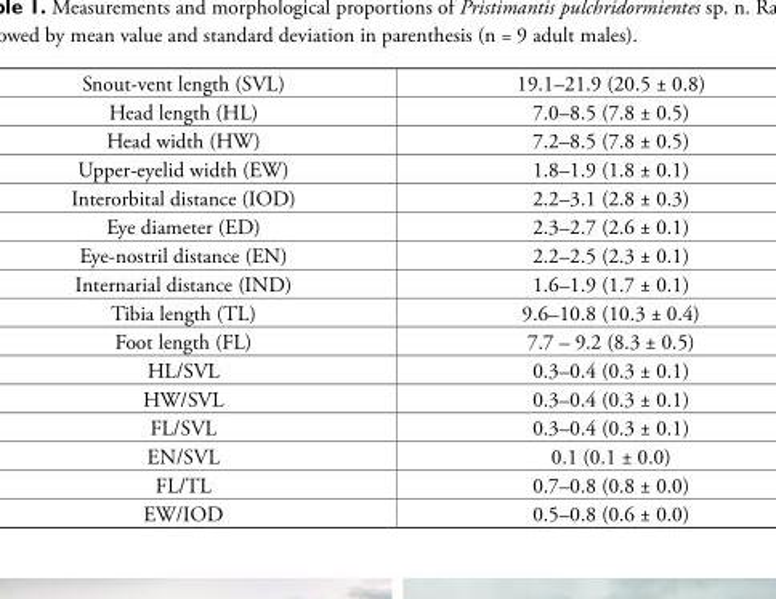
<table><tbody><tr><td>Snout-vent length (SVL)</td><td>19.1–21.9 (20.5 ± 0.8)</td></tr><tr><td>Head length (HL)</td><td>7.0–8.5 (7.8 ± 0.5)</td></tr><tr><td>Head width (HW)</td><td>7.2–8.5 (7.8 ± 0.5)</td></tr><tr><td>Upper-eyelid width (EW)</td><td>1.8–1.9 (1.8 ± 0.1)</td></tr><tr><td>Interorbital distance (IOD)</td><td>2.2–3.1 (2.8 ± 0.3)</td></tr><tr><td>Eye diameter (ED)</td><td>2.3–2.7 (2.6 ± 0.1)</td></tr><tr><td>Eye-nostril distance (EN)</td><td>2.2–2.5 (2.3 ± 0.1)</td></tr><tr><td>Internarial distance (IND)</td><td>1.6–1.9 (1.7 ± 0.1)</td></tr><tr><td>Tibia length (TL)</td><td>9.6–10.8 (10.3 ± 0.4)</td></tr><tr><td>Foot length (FL)</td><td>7.7 – 9.2 (8.3 ± 0.5)</td></tr><tr><td>HL/SVL</td><td>0.3–0.4 (0.3 ± 0.1)</td></tr><tr><td>HW/SVL</td><td>0.3–0.4 (0.3 ± 0.1)</td></tr><tr><td>FL/SVL</td><td>0.3–0.4 (0.3 ± 0.1)</td></tr><tr><td>EN/SVL</td><td>0.1 (0.1 ± 0.0)</td></tr><tr><td>FL/TL</td><td>0.7–0.8 (0.8 ± 0.0)</td></tr><tr><td>EW/IOD</td><td>0.5–0.8 (0.6 ± 0.0)</td></tr></tbody></table>